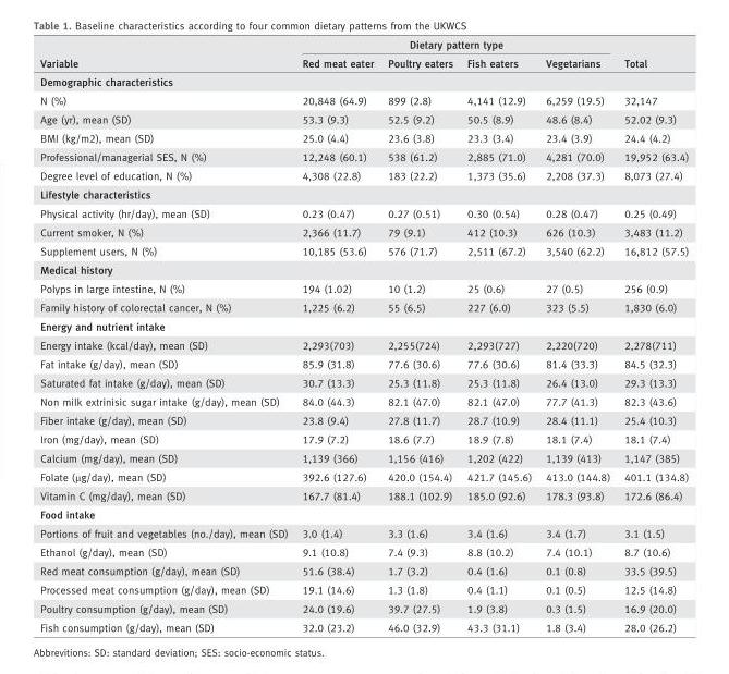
<table><thead><tr><td rowspan="2">Variable</td><td colspan="4">Dietary pattern type</td><td rowspan="2">Total</td></tr><tr><td>Red meat eater</td><td>Poultry eaters</td><td>Fish eaters</td><td>Vegetarians</td></tr></thead><tbody><tr><td colspan="6">Demographic characteristics</td></tr><tr><td>N (%)</td><td>20,848 (64.9)</td><td>899 (2.8)</td><td>4,141 (12.9)</td><td>6,259 (19.5)</td><td>32,147</td></tr><tr><td>Age (yr), mean (SD)</td><td>53.3 (9.3)</td><td>52.5 (9.2)</td><td>50.5 (8.9)</td><td>48.6 (8.4)</td><td>52.02 (9.3)</td></tr><tr><td>BMI (kg/m2), mean (SD)</td><td>25.0 (4.4)</td><td>23.6 (3.8)</td><td>23.3 (3.4)</td><td>23.4 (3.9)</td><td>24.4 (4.2)</td></tr><tr><td>Professional/managerial SES, N (%)</td><td>12,248 (60.1)</td><td>538 (61.2)</td><td>2,885 (71.0)</td><td>4,281 (70.0)</td><td>19,952 (63.4)</td></tr><tr><td>Degree level of education, N (%)</td><td>4,308 (22.8)</td><td>183 (22.2)</td><td>1,373 (35.6)</td><td>2,208 (37.3)</td><td>8,073 (27.4)</td></tr><tr><td colspan="6">Lifestyle characteristics</td></tr><tr><td>Physical activity (hr/day), mean (SD)</td><td>0.23 (0.47)</td><td>0.27 (0.51)</td><td>0.30 (0.54)</td><td>0.28 (0.47)</td><td>0.25 (0.49)</td></tr><tr><td>Current smoker, N (%)</td><td>2,366 (11.7)</td><td>79 (9.1)</td><td>412 (10.3)</td><td>626 (10.3)</td><td>3,483 (11.2)</td></tr><tr><td>Supplement users, N (%)</td><td>10,185 (53.6)</td><td>576 (71.7)</td><td>2,511 (67.2)</td><td>3,540 (62.2)</td><td>16,812 (57.5)</td></tr><tr><td colspan="6">Medical history</td></tr><tr><td>Polyps in large intestine, N (%)</td><td>194 (1.02)</td><td>10 (1.2)</td><td>25 (0.6)</td><td>27 (0.5)</td><td>256 (0.9)</td></tr><tr><td>Family history of colorectal cancer, N (%)</td><td>1,225 (6.2)</td><td>55 (6.5)</td><td>227 (6.0)</td><td>323 (5.5)</td><td>1,830 (6.0)</td></tr><tr><td colspan="6">Energy and nutrient intake</td></tr><tr><td>Energy intake (kcal/day), mean (SD)</td><td>2,293(703)</td><td>2,255(724)</td><td>2,293(727)</td><td>2,220(720)</td><td>2,278(711)</td></tr><tr><td>Fat intake (g/day), mean (SD)</td><td>85.9 (31.8)</td><td>77.6 (30.6)</td><td>77.6 (30.6)</td><td>81.4 (33.3)</td><td>84.5 (32.3)</td></tr><tr><td>Saturated fat intake (g/day), mean (SD)</td><td>30.7 (13.3)</td><td>25.3 (11.8)</td><td>25.3 (11.8)</td><td>26.4 (13.0)</td><td>29.3 (13.3)</td></tr><tr><td>Non milk extrinisic sugar intake (g/day), mean (SD)</td><td>84.0 (44.3)</td><td>82.1 (47.0)</td><td>82.1 (47.0)</td><td>77.7 (41.3)</td><td>82.3 (43.6)</td></tr><tr><td>Fiber intake (g/day), mean (SD)</td><td>23.8 (9.4)</td><td>27.8 (11.7)</td><td>28.7 (10.9)</td><td>28.4 (11.1)</td><td>25.4 (10.3)</td></tr><tr><td>Iron (mg/day), mean (SD)</td><td>17.9 (7.2)</td><td>18.6 (7.7)</td><td>18.9 (7.8)</td><td>18.1 (7.4)</td><td>18.1 (7.4)</td></tr><tr><td>Calcium (mg/day), mean (SD)</td><td>1,139 (366)</td><td>1,156 (416)</td><td>1,202 (422)</td><td>1,139 (413)</td><td>1,147 (385)</td></tr><tr><td>Folate (μg/day), mean (SD)</td><td>392.6 (127.6)</td><td>420.0 (154.4)</td><td>421.7 (145.6)</td><td>413.0 (144.8)</td><td>401.1 (134.8)</td></tr><tr><td>Vitamin C (mg/day), mean (SD)</td><td>167.7 (81.4)</td><td>188.1 (102.9)</td><td>185.0 (92.6)</td><td>178.3 (93.8)</td><td>172.6 (86.4)</td></tr><tr><td colspan="6">Food intake</td></tr><tr><td>Portions of fruit and vegetables (no./day), mean (SD)</td><td>3.0 (1.4)</td><td>3.3 (1.6)</td><td>3.4 (1.6)</td><td>3.4 (1.7)</td><td>3.1 (1.5)</td></tr><tr><td>Ethanol (g/day), mean (SD)</td><td>9.1 (10.8)</td><td>7.4 (9.3)</td><td>8.8 (10.2)</td><td>7.4 (10.1)</td><td>8.7 (10.6)</td></tr><tr><td>Red meat consumption (g/day), mean (SD)</td><td>51.6 (38.4)</td><td>1.7 (3.2)</td><td>0.4 (1.6)</td><td>0.1 (0.8)</td><td>33.5 (39.5)</td></tr><tr><td>Processed meat consumption (g/day), mean (SD)</td><td>19.1 (14.6)</td><td>1.3 (1.8)</td><td>0.4 (1.1)</td><td>0.1 (0.5)</td><td>12.5 (14.8)</td></tr><tr><td>Poultry consumption (g/day), mean (SD)</td><td>24.0 (19.6)</td><td>39.7 (27.5)</td><td>1.9 (3.8)</td><td>0.3 (1.5)</td><td>16.9 (20.0)</td></tr><tr><td>Fish consumption (g/day), mean (SD)</td><td>32.0 (23.2)</td><td>46.0 (32.9)</td><td>43.3 (31.1)</td><td>1.8 (3.4)</td><td>28.0 (26.2)</td></tr></tbody></table>